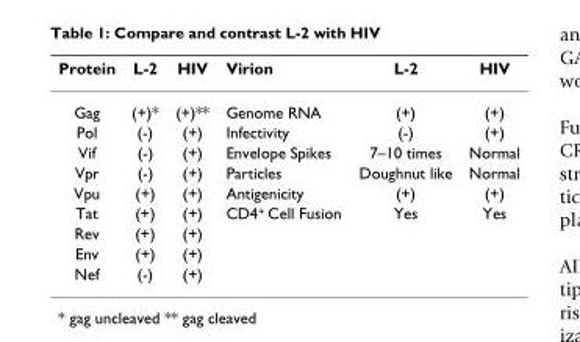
<table><thead><tr><td>Protein</td><td>L-2</td><td>HIV</td><td>Virion</td><td>L-2</td><td>HIV</td></tr></thead><tbody><tr><td>Gag</td><td>(+)*</td><td>(+)**</td><td>Genome RNA</td><td>(+)</td><td>(+)</td></tr><tr><td>Pol</td><td>(-)</td><td>(+)</td><td>Infectivity</td><td>(-)</td><td>(+)</td></tr><tr><td>Vif</td><td>(-)</td><td>(+)</td><td>Envelope Spikes</td><td>7–10 times</td><td>Normal</td></tr><tr><td>Vpr</td><td>(-)</td><td>(+)</td><td>Particles</td><td>Doughnut like</td><td>Normal</td></tr><tr><td>Vpu</td><td>(+)</td><td>(+)</td><td>Antigenicity</td><td>(+)</td><td>(+)</td></tr><tr><td>Tat</td><td>(+)</td><td>(+)</td><td>CD4<sup>+</sup> Cell Fusion</td><td>Yes</td><td>Yes</td></tr><tr><td>Rev</td><td>(+)</td><td>(+)</td><td></td><td></td><td></td></tr><tr><td>Env</td><td>(+)</td><td>(+)</td><td></td><td></td><td></td></tr><tr><td>Nef</td><td>(-)</td><td>(+)</td><td></td><td></td><td></td></tr></tbody></table>